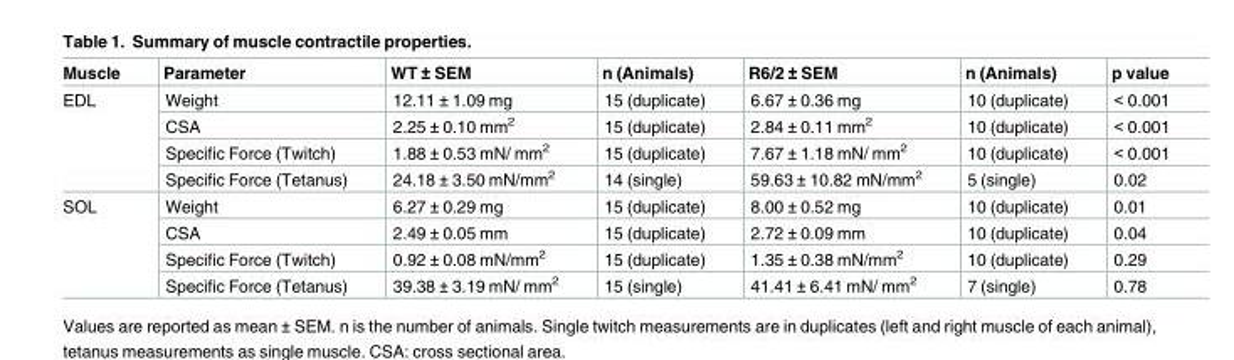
<table><thead><tr><td>Muscle</td><td>Parameter</td><td>WT ± SEM</td><td>n (Animals)</td><td>R6/2 ± SEM</td><td>n (Animals)</td><td>p value</td></tr></thead><tbody><tr><td rowspan="4">EDL</td><td>Weight</td><td>12.11 ± 1.09 mg</td><td>15 (duplicate)</td><td>6.67 ± 0.36 mg</td><td>10 (duplicate)</td><td>&lt; 0.001</td></tr><tr><td>CSA</td><td>2.25 ± 0.10 mm<sup>2</sup></td><td>15 (duplicate)</td><td>2.84 ± 0.11 mm<sup>2</sup></td><td>10 (duplicate)</td><td>&lt; 0.001</td></tr><tr><td>Specific Force (Twitch)</td><td>1.88 ± 0.53 mN/ mm<sup>2</sup></td><td>15 (duplicate)</td><td>7.67 ± 1.18 mN/ mm<sup>2</sup></td><td>10 (duplicate)</td><td>&lt; 0.001</td></tr><tr><td>Specific Force (Tetanus)</td><td>24.18 ± 3.50 mN/mm<sup>2</sup></td><td>14 (single)</td><td>59.63 ± 10.82 mN/mm<sup>2</sup></td><td>5 (single)</td><td>0.02</td></tr><tr><td rowspan="4">SOL</td><td>Weight</td><td>6.27 ± 0.29 mg</td><td>15 (duplicate)</td><td>8.00 ± 0.52 mg</td><td>10 (duplicate)</td><td>0.01</td></tr><tr><td>CSA</td><td>2.49 ± 0.05 mm</td><td>15 (duplicate)</td><td>2.72 ± 0.09 mm</td><td>10 (duplicate)</td><td>0.04</td></tr><tr><td>Specific Force (Twitch)</td><td>0.92 ± 0.08 mN/mm<sup>2</sup></td><td>15 (duplicate)</td><td>1.35 ± 0.38 mN/mm<sup>2</sup></td><td>10 (duplicate)</td><td>0.29</td></tr><tr><td>Specific Force (Tetanus)</td><td>39.38 ± 3.19 mN/ mm<sup>2</sup></td><td>15 (single)</td><td>41.41 ± 6.41 mN/ mm<sup>2</sup></td><td>7 (single)</td><td>0.78</td></tr></tbody></table>